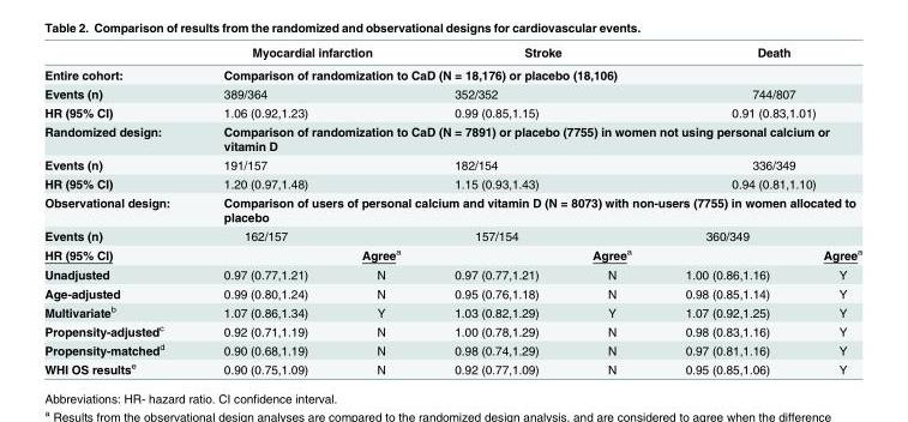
<table><thead><tr><td></td><td colspan="2">Myocardial infarction</td><td colspan="2">Stroke</td><td colspan="2">Death</td></tr></thead><tbody><tr><td>Entire cohort:</td><td colspan="6">Comparison of randomization to CaD (N = 18,176) or placebo (18,106)</td></tr><tr><td>Events (n)</td><td colspan="2">389/364</td><td colspan="2">352/352</td><td colspan="2">744/807</td></tr><tr><td>HR (95% CI)</td><td colspan="2">1.06 (0.92,1.23)</td><td colspan="2">0.99 (0.85,1.15)</td><td colspan="2">0.91 (0.83,1.01)</td></tr><tr><td>Randomized design:</td><td colspan="6">Comparison of randomization to CaD (N = 7891) or placebo (7755) in women not using personal calcium or vitamin D</td></tr><tr><td>Events (n)</td><td colspan="2">191/157</td><td colspan="2">182/154</td><td colspan="2">336/349</td></tr><tr><td>HR (95% CI)</td><td colspan="2">1.20 (0.97,1.48)</td><td colspan="2">1.15 (0.93,1.43)</td><td colspan="2">0.94 (0.81,1.10)</td></tr><tr><td>Observational design:</td><td colspan="6">Comparison of users of personal calcium and vitamin D (N = 8073) with non-users (7755) in women allocated to placebo</td></tr><tr><td>Events (n)</td><td>162/157</td><td></td><td>157/154</td><td></td><td>360/349</td><td></td></tr><tr><td>HR (95% CI)</td><td></td><td>Agree<sup>a</sup></td><td></td><td>Agree<sup>a</sup></td><td></td><td>Agree<sup>a</sup></td></tr><tr><td>Unadjusted</td><td>0.97 (0.77,1.21)</td><td>N</td><td>0.97 (0.77,1.21)</td><td>N</td><td>1.00 (0.86,1.16)</td><td>Y</td></tr><tr><td>Age-adjusted</td><td>0.99 (0.80,1.24)</td><td>N</td><td>0.95 (0.76,1.18)</td><td>N</td><td>0.98 (0.85,1.14)</td><td>Y</td></tr><tr><td>Multivariate<sup>b</sup></td><td>1.07 (0.86,1.34)</td><td>Y</td><td>1.03 (0.82,1.29)</td><td>Y</td><td>1.07 (0.92,1.25)</td><td>Y</td></tr><tr><td>Propensity-adjusted<sup>c</sup></td><td>0.92 (0.71,1.19)</td><td>N</td><td>1.00 (0.78,1.29)</td><td>N</td><td>0.98 (0.83,1.16)</td><td>Y</td></tr><tr><td>Propensity-matched<sup>d</sup></td><td>0.90 (0.68,1.19)</td><td>N</td><td>0.98 (0.74,1.29)</td><td>N</td><td>0.97 (0.81,1.16)</td><td>Y</td></tr><tr><td>WHI OS results<sup>e</sup></td><td>0.90 (0.75,1.09)</td><td>N</td><td>0.92 (0.77,1.09)</td><td>N</td><td>0.95 (0.85,1.06)</td><td>Y</td></tr></tbody></table>